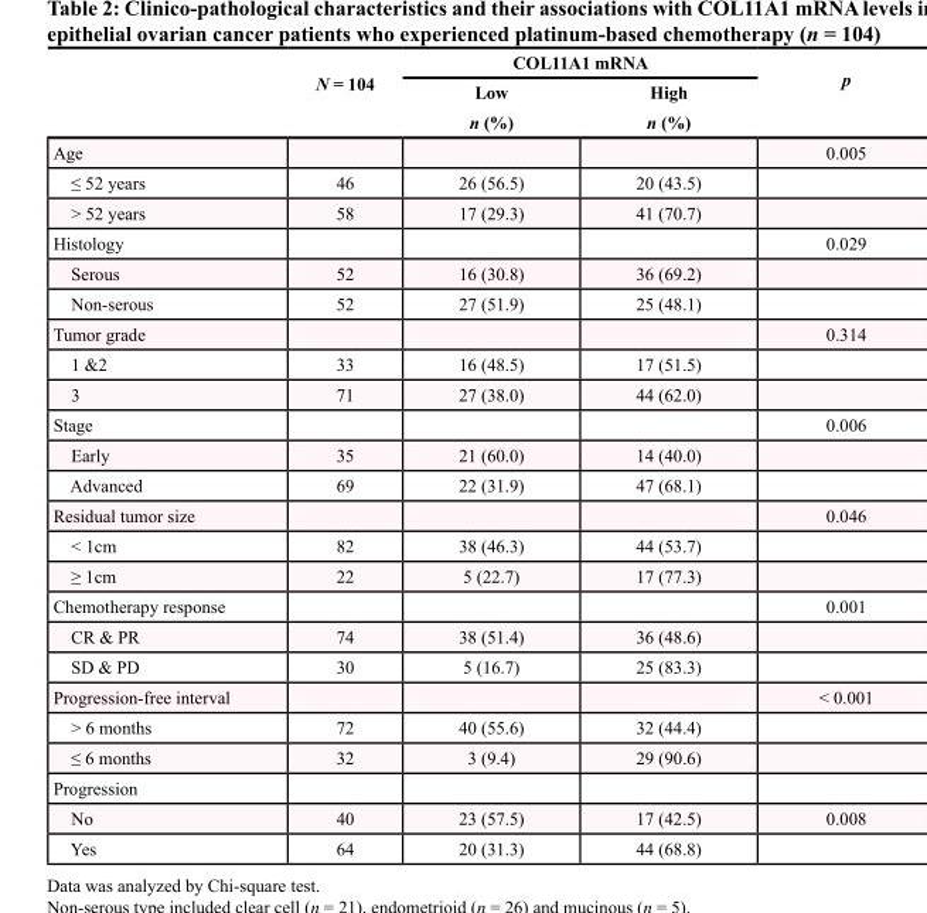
<table><thead><tr><td rowspan="2"></td><td rowspan="2">N = 104</td><td colspan="2">COL11A1 mRNA</td><td rowspan="2">p</td></tr><tr><td>Low n (%)</td><td>High n (%)</td></tr></thead><tbody><tr><td>Age</td><td></td><td></td><td></td><td>0.005</td></tr><tr><td>≤ 52 years</td><td>46</td><td>26 (56.5)</td><td>20 (43.5)</td><td></td></tr><tr><td>&gt; 52 years</td><td>58</td><td>17 (29.3)</td><td>41 (70.7)</td><td></td></tr><tr><td>Histology</td><td></td><td></td><td></td><td>0.029</td></tr><tr><td>Serous</td><td>52</td><td>16 (30.8)</td><td>36 (69.2)</td><td></td></tr><tr><td>Non-serous</td><td>52</td><td>27 (51.9)</td><td>25 (48.1)</td><td></td></tr><tr><td>Tumor grade</td><td></td><td></td><td></td><td>0.314</td></tr><tr><td>1 &amp;2</td><td>33</td><td>16 (48.5)</td><td>17 (51.5)</td><td></td></tr><tr><td>3</td><td>71</td><td>27 (38.0)</td><td>44 (62.0)</td><td></td></tr><tr><td>Stage</td><td></td><td></td><td></td><td>0.006</td></tr><tr><td>Early</td><td>35</td><td>21 (60.0)</td><td>14 (40.0)</td><td></td></tr><tr><td>Advanced</td><td>69</td><td>22 (31.9)</td><td>47 (68.1)</td><td></td></tr><tr><td>Residual tumor size</td><td></td><td></td><td></td><td>0.046</td></tr><tr><td>&lt; 1cm</td><td>82</td><td>38 (46.3)</td><td>44 (53.7)</td><td></td></tr><tr><td>≥ 1cm</td><td>22</td><td>5 (22.7)</td><td>17 (77.3)</td><td></td></tr><tr><td>Chemotherapy response</td><td></td><td></td><td></td><td>0.001</td></tr><tr><td>CR &amp; PR</td><td>74</td><td>38 (51.4)</td><td>36 (48.6)</td><td></td></tr><tr><td>SD &amp; PD</td><td>30</td><td>5 (16.7)</td><td>25 (83.3)</td><td></td></tr><tr><td>Progression-free interval</td><td></td><td></td><td></td><td>&lt; 0.001</td></tr><tr><td>&gt; 6 months</td><td>72</td><td>40 (55.6)</td><td>32 (44.4)</td><td></td></tr><tr><td>≤ 6 months</td><td>32</td><td>3 (9.4)</td><td>29 (90.6)</td><td></td></tr><tr><td colspan="5">Progression</td></tr><tr><td>No</td><td>40</td><td>23 (57.5)</td><td>17 (42.5)</td><td>0.008</td></tr><tr><td>Yes</td><td>64</td><td>20 (31.3)</td><td>44 (68.8)</td><td></td></tr></tbody></table>